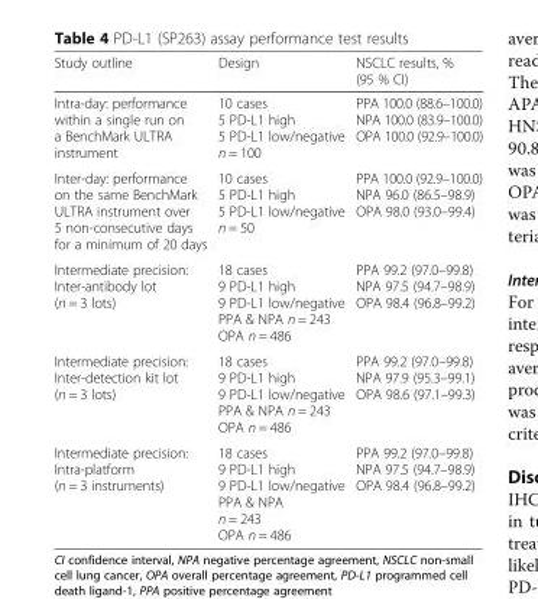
<table><thead><tr><td>Study outline</td><td>Design</td><td>NSCLC results, % (95 % CI)</td></tr></thead><tbody><tr><td>Intra-day: performance within a single run on a BenchMark ULTRA instrument</td><td>10 cases 5 PD-L1 high 5 PD-L1 low/negative n = 100</td><td>PPA 100.0 (88.6–100.0) NPA 100.0 (83.9–100.0) OPA 100.0 (92.9–100.0)</td></tr><tr><td>Inter-day: performance on the same BenchMark ULTRA instrument over 5 non-consecutive days for a minimum of 20 days</td><td>10 cases 5 PD-L1 high 5 PD-L1 low/negative n = 50</td><td>PPA 100.0 (92.9–100.0) NPA 96.0 (86.5–98.9) OPA 98.0 (93.0–99.4)</td></tr><tr><td>Intermediate precision: Inter-antibody lot (n = 3 lots)</td><td>18 cases 9 PD-L1 high 9 PD-L1 low/negative PPA &amp; NPA n = 243 OPA n = 486</td><td>PPA 99.2 (97.0–99.8) NPA 97.5 (94.7–98.9) OPA 98.4 (96.8–99.2)</td></tr><tr><td>Intermediate precision: Inter-detection kit lot (n = 3 lots)</td><td>18 cases 9 PD-L1 high 9 PD-L1 low/negative PPA &amp; NPA n = 243 OPA n = 486</td><td>PPA 99.2 (97.0–99.8) NPA 97.9 (95.3–99.1) OPA 98.6 (97.1–99.3)</td></tr><tr><td>Intermediate precision: Intra-platform (n = 3 instruments)</td><td>18 cases 9 PD-L1 high 9 PD-L1 low/negative PPA &amp; NPA n = 243 OPA n = 486</td><td>PPA 99.2 (97.0–99.8) NPA 97.5 (94.7–98.9) OPA 98.4 (96.8–99.2)</td></tr></tbody></table>